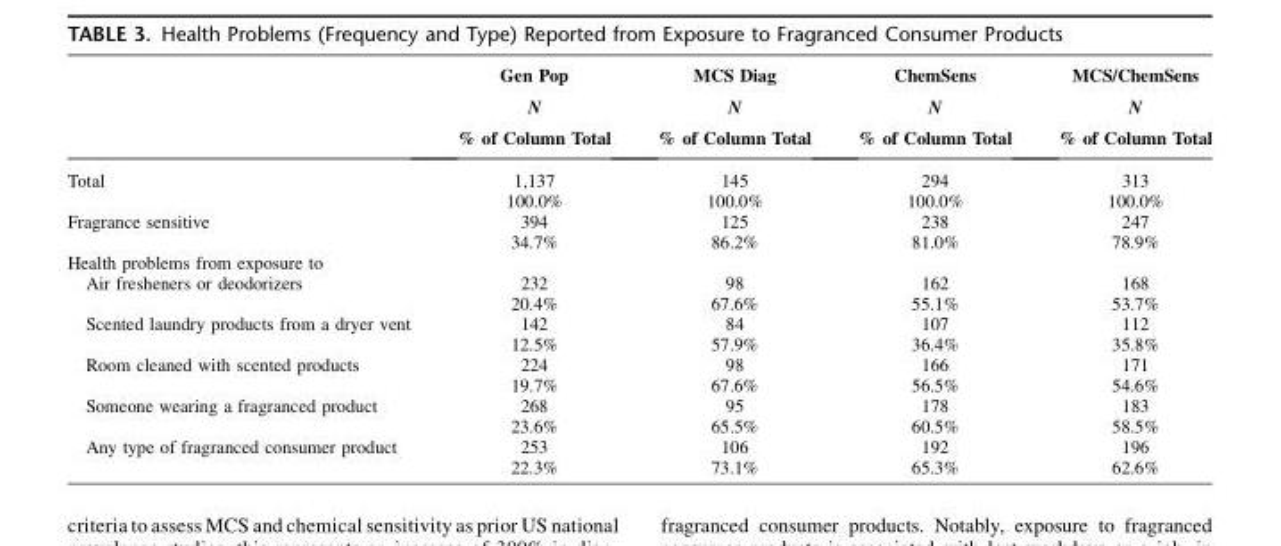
<table><thead><tr><td rowspan="3"></td><td rowspan="3">Gen Pop N % of Column Total</td><td rowspan="3">MCS Diag N % of Column Total</td><td rowspan="3">ChemSens N % of Column Total</td><td rowspan="3">MCS/ChemSens N % of Column Total</td></tr><tr></tr><tr></tr></thead><tbody><tr><td rowspan="2">Total</td><td>1,137</td><td>145</td><td>294</td><td>313</td></tr><tr><td>100.0%</td><td>100.0%</td><td>100.0%</td><td>100.0%</td></tr><tr><td rowspan="2">Fragrance sensitive</td><td>394</td><td>125</td><td>238</td><td>247</td></tr><tr><td>34.7%</td><td>86.2%</td><td>81.0%</td><td>78.9%</td></tr><tr><td colspan="5">Health problems from exposure to</td></tr><tr><td rowspan="2">Air fresheners or deodorizers</td><td>232</td><td>98</td><td>162</td><td>168</td></tr><tr><td>20.4%</td><td>67.6%</td><td>55.1%</td><td>53.7%</td></tr><tr><td rowspan="2">Scented laundry products from a dryer vent</td><td>142</td><td>84</td><td>107</td><td>112</td></tr><tr><td>12.5%</td><td>57.9%</td><td>36.4%</td><td>35.8%</td></tr><tr><td rowspan="2">Room cleaned with scented products</td><td>224</td><td>98</td><td>166</td><td>171</td></tr><tr><td>19.7%</td><td>67.6%</td><td>56.5%</td><td>54.6%</td></tr><tr><td rowspan="2">Someone wearing a fragranced product</td><td>268</td><td>95</td><td>178</td><td>183</td></tr><tr><td>23.6%</td><td>65.5%</td><td>60.5%</td><td>58.5%</td></tr><tr><td rowspan="2">Any type of fragranced consumer product</td><td>253</td><td>106</td><td>192</td><td>196</td></tr><tr><td>22.3%</td><td>73.1%</td><td>65.3%</td><td>62.6%</td></tr></tbody></table>